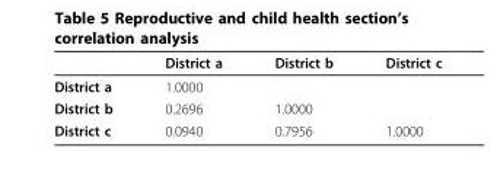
<table><thead><tr><td></td><td>District a</td><td>District b</td><td>District c</td></tr></thead><tbody><tr><td>District a</td><td>1.0000</td><td></td><td></td></tr><tr><td>District b</td><td>0.2696</td><td>1.0000</td><td></td></tr><tr><td>District c</td><td>0.0940</td><td>0.7956</td><td>1.0000</td></tr></tbody></table>